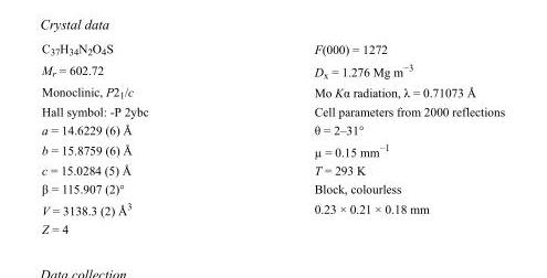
<table><tbody><tr><td>C<sub>37</sub>H<sub>34</sub>N<sub>2</sub>O<sub>4</sub>S</td><td>F(000) = 1272</td></tr><tr><td>M<sub>r</sub> = 602.72</td><td>D<sub>x</sub> = 1.276 Mg m<sup>−3</sup></td></tr><tr><td>Monoclinic, P2<sub>1</sub>/c</td><td>Mo Kα radiation, λ = 0.71073 Å</td></tr><tr><td>Hall symbol: -P 2ybc</td><td>Cell parameters from 2000 reflections</td></tr><tr><td>a = 14.6229 (6) Å</td><td>θ = 2–31°</td></tr><tr><td>b = 15.8759 (6) Å</td><td>µ = 0.15 mm<sup>−1</sup></td></tr><tr><td>c = 15.0284 (5) Å</td><td>T = 293 K</td></tr><tr><td>β = 115.907 (2)°</td><td>Block, colourless</td></tr><tr><td>V = 3138.3 (2) Å<sup>3</sup></td><td>0.23 × 0.21 × 0.18 mm</td></tr><tr><td>Z = 4</td><td></td></tr></tbody></table>